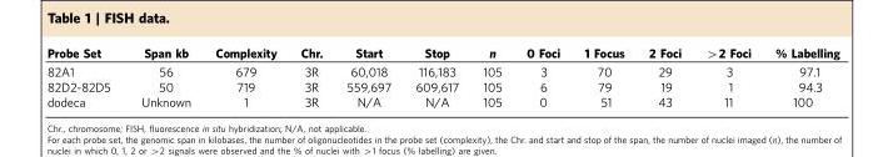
<table><thead><tr><td>Probe Set</td><td>Span kb</td><td>Complexity</td><td>Chr.</td><td>Start</td><td>Stop</td><td>n</td><td>0 Foci</td><td>1 Focus</td><td>2 Foci</td><td>&gt;2 Foci</td><td>% Labelling</td></tr></thead><tbody><tr><td>82A1</td><td>56</td><td>679</td><td>3R</td><td>60,018</td><td>116,183</td><td>105</td><td>3</td><td>70</td><td>29</td><td>3</td><td>97.1</td></tr><tr><td>82D2-82D5</td><td>50</td><td>719</td><td>3R</td><td>559,697</td><td>609,617</td><td>105</td><td>6</td><td>79</td><td>19</td><td>1</td><td>94.3</td></tr><tr><td>dodeca</td><td>Unknown</td><td>1</td><td>3R</td><td>N/A</td><td>N/A</td><td>105</td><td>0</td><td>51</td><td>43</td><td>11</td><td>100</td></tr></tbody></table>